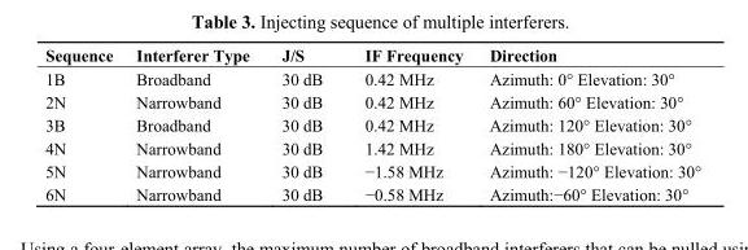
<table><thead><tr><td>Sequence</td><td>Interferer Type</td><td>J/S</td><td>IF Frequency</td><td>Direction</td></tr></thead><tbody><tr><td>1B</td><td>Broadband</td><td>30 dB</td><td>0.42 MHz</td><td>Azimuth: 0° Elevation: 30°</td></tr><tr><td>2N</td><td>Narrowband</td><td>30 dB</td><td>0.42 MHz</td><td>Azimuth: 60° Elevation: 30°</td></tr><tr><td>3B</td><td>Broadband</td><td>30 dB</td><td>0.42 MHz</td><td>Azimuth: 120° Elevation: 30°</td></tr><tr><td>4N</td><td>Narrowband</td><td>30 dB</td><td>1.42 MHz</td><td>Azimuth: 180° Elevation: 30°</td></tr><tr><td>5N</td><td>Narrowband</td><td>30 dB</td><td>−1.58 MHz</td><td>Azimuth: −120° Elevation: 30°</td></tr><tr><td>6N</td><td>Narrowband</td><td>30 dB</td><td>−0.58 MHz</td><td>Azimuth:−60° Elevation: 30°</td></tr></tbody></table>